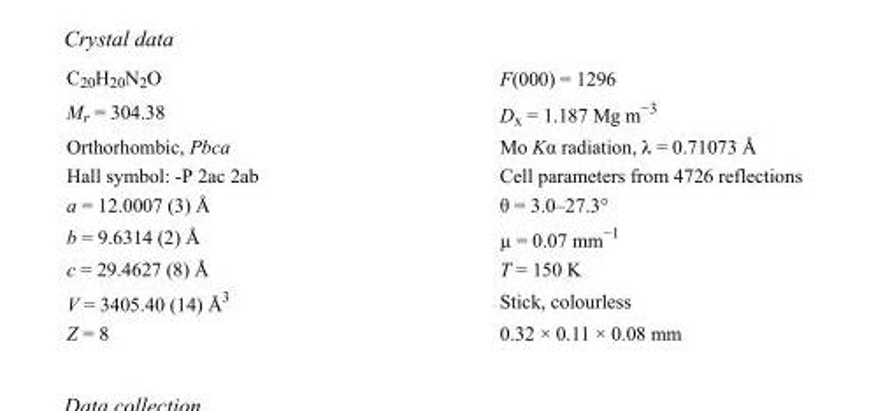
<table><tbody><tr><td>C<sub>20</sub>H<sub>20</sub>N<sub>2</sub>O</td><td>F(000) = 1296</td></tr><tr><td>M<sub>r</sub> = 304.38</td><td>D<sub>x</sub> = 1.187 Mg m<sup>−3</sup></td></tr><tr><td>Orthorhombic, Pbca</td><td>Mo Kα radiation, λ = 0.71073 Å</td></tr><tr><td>Hall symbol: -P 2ac 2ab</td><td>Cell parameters from 4726 reflections</td></tr><tr><td>a = 12.0007 (3) Å</td><td>θ = 3.0–27.3°</td></tr><tr><td>b = 9.6314 (2) Å</td><td>µ = 0.07 mm<sup>−1</sup></td></tr><tr><td>c = 29.4627 (8) Å</td><td>T = 150 K</td></tr><tr><td>V = 3405.40 (14) Å<sup>3</sup></td><td>Stick, colourless</td></tr><tr><td>Z = 8</td><td>0.32 × 0.11 × 0.08 mm</td></tr></tbody></table>